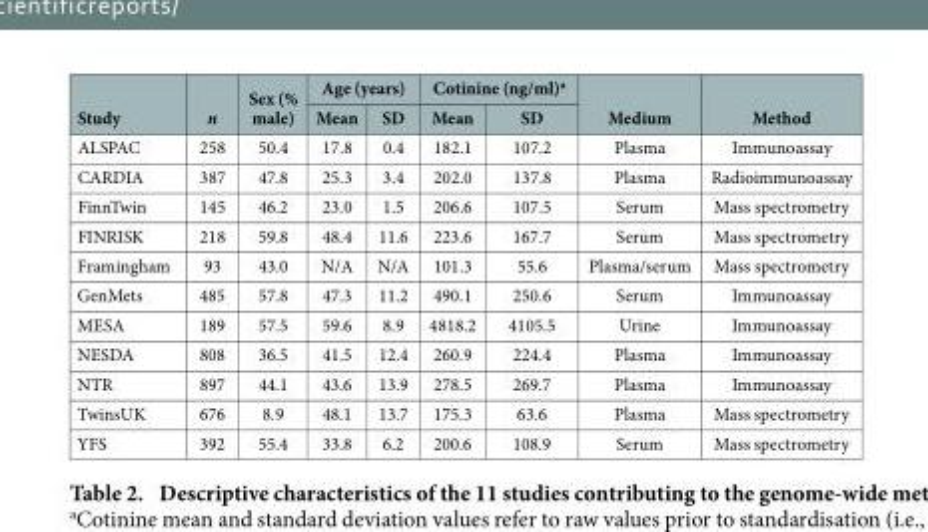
<table><thead><tr><td rowspan="2">Study</td><td rowspan="2">n</td><td rowspan="2">Sex (% male)</td><td colspan="2">Age (years)</td><td colspan="2">Cotinine (ng/ml)<sup>a</sup></td><td rowspan="2">Medium</td><td rowspan="2">Method</td></tr><tr><td>Mean</td><td>SD</td><td>Mean</td><td>SD</td></tr></thead><tbody><tr><td>ALSPAC</td><td>258</td><td>50.4</td><td>17.8</td><td>0.4</td><td>182.1</td><td>107.2</td><td>Plasma</td><td>Immunoassay</td></tr><tr><td>CARDIA</td><td>387</td><td>47.8</td><td>25.3</td><td>3.4</td><td>202.0</td><td>137.8</td><td>Plasma</td><td>Radioimmunoassay</td></tr><tr><td>FinnTwin</td><td>145</td><td>46.2</td><td>23.0</td><td>1.5</td><td>206.6</td><td>107.5</td><td>Serum</td><td>Mass spectrometry</td></tr><tr><td>FINRISK</td><td>218</td><td>59.8</td><td>48.4</td><td>11.6</td><td>223.6</td><td>167.7</td><td>Serum</td><td>Mass spectrometry</td></tr><tr><td>Framingham</td><td>93</td><td>43.0</td><td>N/A</td><td>N/A</td><td>101.3</td><td>55.6</td><td>Plasma/serum</td><td>Mass spectrometry</td></tr><tr><td>GenMets</td><td>485</td><td>57.8</td><td>47.3</td><td>11.2</td><td>490.1</td><td>250.6</td><td>Serum</td><td>Immunoassay</td></tr><tr><td>MESA</td><td>189</td><td>57.5</td><td>59.6</td><td>8.9</td><td>4818.2</td><td>4105.5</td><td>Urine</td><td>Immunoassay</td></tr><tr><td>NESDA</td><td>808</td><td>36.5</td><td>41.5</td><td>12.4</td><td>260.9</td><td>224.4</td><td>Plasma</td><td>Immunoassay</td></tr><tr><td>NTR</td><td>897</td><td>44.1</td><td>43.6</td><td>13.9</td><td>278.5</td><td>269.7</td><td>Plasma</td><td>Immunoassay</td></tr><tr><td>TwinsUK</td><td>676</td><td>8.9</td><td>48.1</td><td>13.7</td><td>175.3</td><td>63.6</td><td>Plasma</td><td>Mass spectrometry</td></tr><tr><td>YFS</td><td>392</td><td>55.4</td><td>33.8</td><td>6.2</td><td>200.6</td><td>108.9</td><td>Serum</td><td>Mass spectrometry</td></tr></tbody></table>